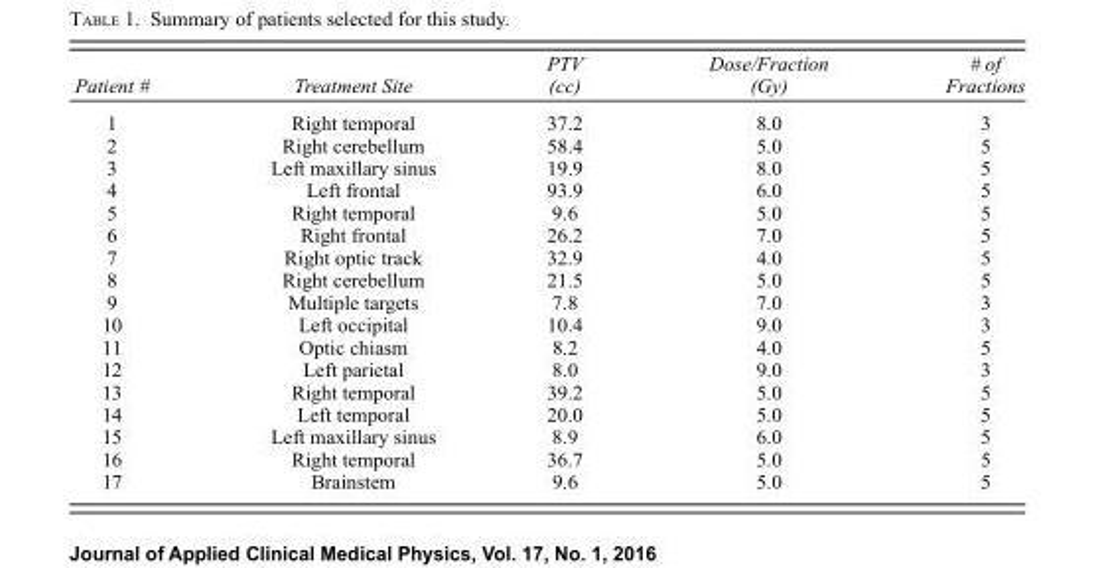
<table><thead><tr><td>Patient #</td><td>Treatment Site</td><td>(cc)</td><td>(Gy)</td><td>Fractions</td></tr></thead><tbody><tr><td>1</td><td>Right temporal</td><td>37.2</td><td>8.0</td><td>3</td></tr><tr><td>2</td><td>Right cerebellum</td><td>58.4</td><td>5.0</td><td>5</td></tr><tr><td>3</td><td>Left maxillary sinus</td><td>19.9</td><td>8.0</td><td>5</td></tr><tr><td>4</td><td>Left frontal</td><td>93.9</td><td>6.0</td><td>5</td></tr><tr><td>5</td><td>Right temporal</td><td>9.6</td><td>5.0</td><td>5</td></tr><tr><td>6</td><td>Right frontal</td><td>26.2</td><td>7.0</td><td>5</td></tr><tr><td>7</td><td>Right optic track</td><td>32.9</td><td>4.0</td><td>5</td></tr><tr><td>8</td><td>Right cerebellum</td><td>21.5</td><td>5.0</td><td>5</td></tr><tr><td>9</td><td>Multiple targets</td><td>7.8</td><td>7.0</td><td>3</td></tr><tr><td>10</td><td>Left occipital</td><td>10.4</td><td>9.0</td><td>3</td></tr><tr><td>11</td><td>Optic chiasm</td><td>8.2</td><td>4.0</td><td>5</td></tr><tr><td>12</td><td>Left parietal</td><td>8.0</td><td>9.0</td><td>3</td></tr><tr><td>13</td><td>Right temporal</td><td>39.2</td><td>5.0</td><td>5</td></tr><tr><td>14</td><td>Left temporal</td><td>20.0</td><td>5.0</td><td>5</td></tr><tr><td>15</td><td>Left maxillary sinus</td><td>8.9</td><td>6.0</td><td>5</td></tr><tr><td>16</td><td>Right temporal</td><td>36.7</td><td>5.0</td><td>5</td></tr><tr><td>17</td><td>Brainstem</td><td>9.6</td><td>5.0</td><td>5</td></tr></tbody></table>